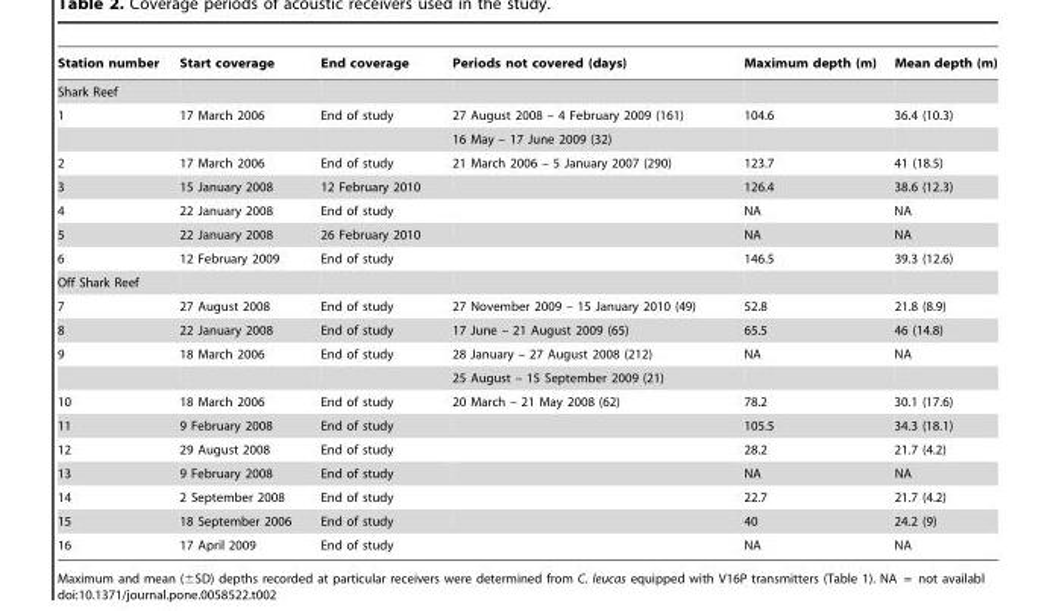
<table><thead><tr><td>Station number</td><td>Start coverage</td><td>End coverage</td><td>Periods not covered (days)</td><td>Maximum depth (m)</td><td>Mean depth (m)</td></tr></thead><tbody><tr><td colspan="6">Shark Reef</td></tr><tr><td rowspan="2">1</td><td>17 March 2006</td><td>End of study</td><td>27 August 2008 – 4 February 2009 (161)</td><td>104.6</td><td>36.4 (10.3)</td></tr><tr><td></td><td></td><td>16 May – 17 June 2009 (32)</td><td></td><td></td></tr><tr><td>2</td><td>17 March 2006</td><td>End of study</td><td>21 March 2006 – 5 January 2007 (290)</td><td>123.7</td><td>41 (18.5)</td></tr><tr><td>3</td><td>15 January 2008</td><td>12 February 2010</td><td></td><td>126.4</td><td>38.6 (12.3)</td></tr><tr><td>4</td><td>22 January 2008</td><td>End of study</td><td></td><td>NA</td><td>NA</td></tr><tr><td>5</td><td>22 January 2008</td><td>26 February 2010</td><td></td><td>NA</td><td>NA</td></tr><tr><td>6</td><td>12 February 2009</td><td>End of study</td><td></td><td>146.5</td><td>39.3 (12.6)</td></tr><tr><td colspan="6">Off Shark Reef</td></tr><tr><td>7</td><td>27 August 2008</td><td>End of study</td><td>27 November 2009 – 15 January 2010 (49)</td><td>52.8</td><td>21.8 (8.9)</td></tr><tr><td>8</td><td>22 January 2008</td><td>End of study</td><td>17 June – 21 August 2009 (65)</td><td>65.5</td><td>46 (14.8)</td></tr><tr><td rowspan="2">9</td><td>18 March 2006</td><td>End of study</td><td>28 January – 27 August 2008 (212)</td><td>NA</td><td>NA</td></tr><tr><td></td><td></td><td>25 August – 15 September 2009 (21)</td><td></td><td></td></tr><tr><td>10</td><td>18 March 2006</td><td>End of study</td><td>20 March – 21 May 2008 (62)</td><td>78.2</td><td>30.1 (17.6)</td></tr><tr><td>11</td><td>9 February 2008</td><td>End of study</td><td></td><td>105.5</td><td>34.3 (18.1)</td></tr><tr><td>12</td><td>29 August 2008</td><td>End of study</td><td></td><td>28.2</td><td>21.7 (4.2)</td></tr><tr><td>13</td><td>9 February 2008</td><td>End of study</td><td></td><td>NA</td><td>NA</td></tr><tr><td>14</td><td>2 September 2008</td><td>End of study</td><td></td><td>22.7</td><td>21.7 (4.2)</td></tr><tr><td>15</td><td>18 September 2006</td><td>End of study</td><td></td><td>40</td><td>24.2 (9)</td></tr><tr><td>16</td><td>17 April 2009</td><td>End of study</td><td></td><td>NA</td><td>NA</td></tr></tbody></table>